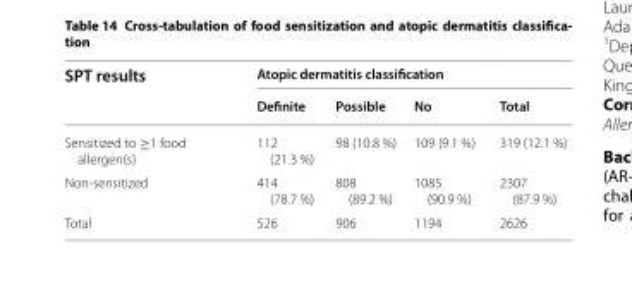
<table><thead><tr><td rowspan="2">SPT results</td><td colspan="4">Atopic dermatitis classification</td></tr><tr><td>Definite</td><td>Possible</td><td>No</td><td>Total</td></tr></thead><tbody><tr><td>Sensitized to ≥1 food allergen(s)</td><td>112 (21.3 %)</td><td>98 (10.8 %)</td><td>109 (9.1 %)</td><td>319 (12.1 %)</td></tr><tr><td>Non‑sensitized</td><td>414 (78.7 %)</td><td>808 (89.2 %)</td><td>1085 (90.9 %)</td><td>2307 (87.9 %)</td></tr><tr><td>Total</td><td>526</td><td>906</td><td>1194</td><td>2626</td></tr></tbody></table>